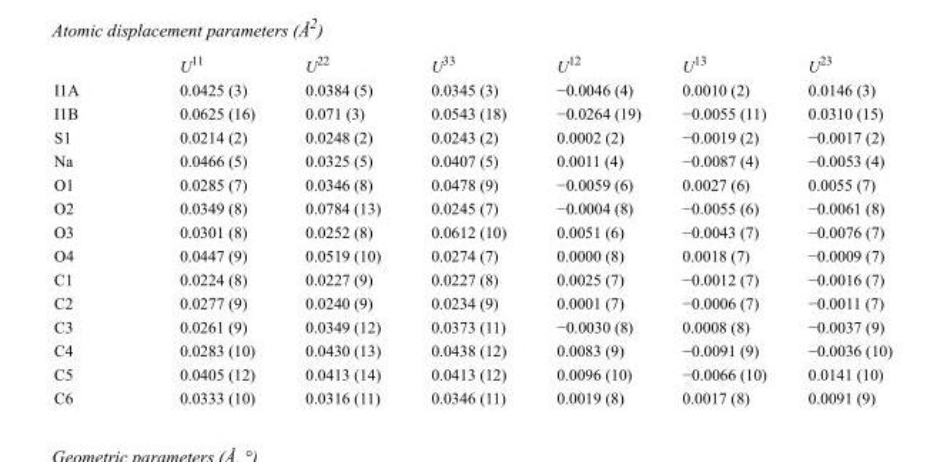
<table><thead><tr><td></td><td>U<sup>11</sup></td><td>U<sup>22</sup></td><td>U<sup>33</sup></td><td>U<sup>12</sup></td><td>U<sup>13</sup></td><td>U<sup>23</sup></td></tr></thead><tbody><tr><td>I1A</td><td>0.0425 (3)</td><td>0.0384 (5)</td><td>0.0345 (3)</td><td>−0.0046 (4)</td><td>0.0010 (2)</td><td>0.0146 (3)</td></tr><tr><td>I1B</td><td>0.0625 (16)</td><td>0.071 (3)</td><td>0.0543 (18)</td><td>−0.0264 (19)</td><td>−0.0055 (11)</td><td>0.0310 (15)</td></tr><tr><td>S1</td><td>0.0214 (2)</td><td>0.0248 (2)</td><td>0.0243 (2)</td><td>0.0002 (2)</td><td>−0.0019 (2)</td><td>−0.0017 (2)</td></tr><tr><td>Na</td><td>0.0466 (5)</td><td>0.0325 (5)</td><td>0.0407 (5)</td><td>0.0011 (4)</td><td>−0.0087 (4)</td><td>−0.0053 (4)</td></tr><tr><td>O1</td><td>0.0285 (7)</td><td>0.0346 (8)</td><td>0.0478 (9)</td><td>−0.0059 (6)</td><td>0.0027 (6)</td><td>0.0055 (7)</td></tr><tr><td>O2</td><td>0.0349 (8)</td><td>0.0784 (13)</td><td>0.0245 (7)</td><td>−0.0004 (8)</td><td>−0.0055 (6)</td><td>−0.0061 (8)</td></tr><tr><td>O3</td><td>0.0301 (8)</td><td>0.0252 (8)</td><td>0.0612 (10)</td><td>0.0051 (6)</td><td>−0.0043 (7)</td><td>−0.0076 (7)</td></tr><tr><td>O4</td><td>0.0447 (9)</td><td>0.0519 (10)</td><td>0.0274 (7)</td><td>0.0000 (8)</td><td>0.0018 (7)</td><td>−0.0009 (7)</td></tr><tr><td>C1</td><td>0.0224 (8)</td><td>0.0227 (9)</td><td>0.0227 (8)</td><td>0.0025 (7)</td><td>−0.0012 (7)</td><td>−0.0016 (7)</td></tr><tr><td>C2</td><td>0.0277 (9)</td><td>0.0240 (9)</td><td>0.0234 (9)</td><td>0.0001 (7)</td><td>−0.0006 (7)</td><td>−0.0011 (7)</td></tr><tr><td>C3</td><td>0.0261 (9)</td><td>0.0349 (12)</td><td>0.0373 (11)</td><td>−0.0030 (8)</td><td>0.0008 (8)</td><td>−0.0037 (9)</td></tr><tr><td>C4</td><td>0.0283 (10)</td><td>0.0430 (13)</td><td>0.0438 (12)</td><td>0.0083 (9)</td><td>−0.0091 (9)</td><td>−0.0036 (10)</td></tr><tr><td>C5</td><td>0.0405 (12)</td><td>0.0413 (14)</td><td>0.0413 (12)</td><td>0.0096 (10)</td><td>−0.0066 (10)</td><td>0.0141 (10)</td></tr><tr><td>C6</td><td>0.0333 (10)</td><td>0.0316 (11)</td><td>0.0346 (11)</td><td>0.0019 (8)</td><td>0.0017 (8)</td><td>0.0091 (9)</td></tr></tbody></table>